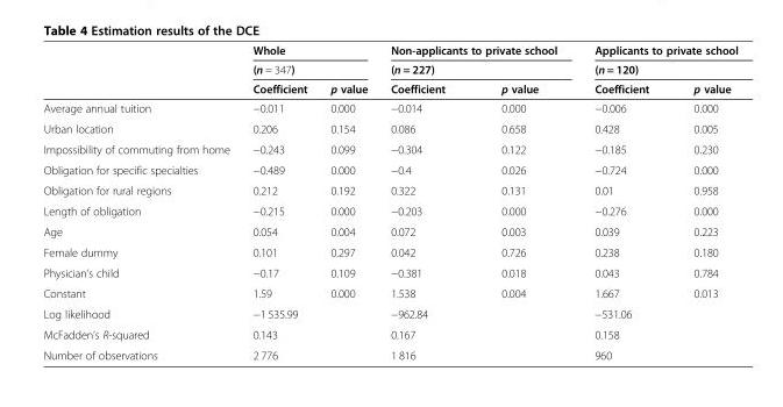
<table><thead><tr><td rowspan="3"></td><td rowspan="2" colspan="2">Whole (n = 347)</td><td rowspan="2" colspan="2">Non-applicants to private school (n = 227)</td><td rowspan="2" colspan="2">Applicants to private school (n = 120)</td></tr><tr></tr><tr><td>Coefficient</td><td>p value</td><td>Coefficient</td><td>p value</td><td>Coefficient</td><td>p value</td></tr></thead><tbody><tr><td>Average annual tuition</td><td>−0.011</td><td>0.000</td><td>−0.014</td><td>0.000</td><td>−0.006</td><td>0.000</td></tr><tr><td>Urban location</td><td>0.206</td><td>0.154</td><td>0.086</td><td>0.658</td><td>0.428</td><td>0.005</td></tr><tr><td>Impossibility of commuting from home</td><td>−0.243</td><td>0.099</td><td>−0.304</td><td>0.122</td><td>−0.185</td><td>0.230</td></tr><tr><td>Obligation for specific specialties</td><td>−0.489</td><td>0.000</td><td>−0.4</td><td>0.026</td><td>−0.724</td><td>0.000</td></tr><tr><td>Obligation for rural regions</td><td>0.212</td><td>0.192</td><td>0.322</td><td>0.131</td><td>0.01</td><td>0.958</td></tr><tr><td>Length of obligation</td><td>−0.215</td><td>0.000</td><td>−0.203</td><td>0.000</td><td>−0.276</td><td>0.000</td></tr><tr><td>Age</td><td>0.054</td><td>0.004</td><td>0.072</td><td>0.003</td><td>0.039</td><td>0.223</td></tr><tr><td>Female dummy</td><td>0.101</td><td>0.297</td><td>0.042</td><td>0.726</td><td>0.238</td><td>0.180</td></tr><tr><td>Physician’s child</td><td>−0.17</td><td>0.109</td><td>−0.381</td><td>0.018</td><td>0.043</td><td>0.784</td></tr><tr><td>Constant</td><td>1.59</td><td>0.000</td><td>1.538</td><td>0.004</td><td>1.667</td><td>0.013</td></tr><tr><td>Log likelihood</td><td colspan="2">−1 535.99</td><td colspan="2">−962.84</td><td colspan="2">−531.06</td></tr><tr><td>McFadden’s R-squared</td><td colspan="2">0.143</td><td colspan="2">0.167</td><td colspan="2">0.158</td></tr><tr><td>Number of observations</td><td colspan="2">2 776</td><td colspan="2">1 816</td><td colspan="2">960</td></tr></tbody></table>